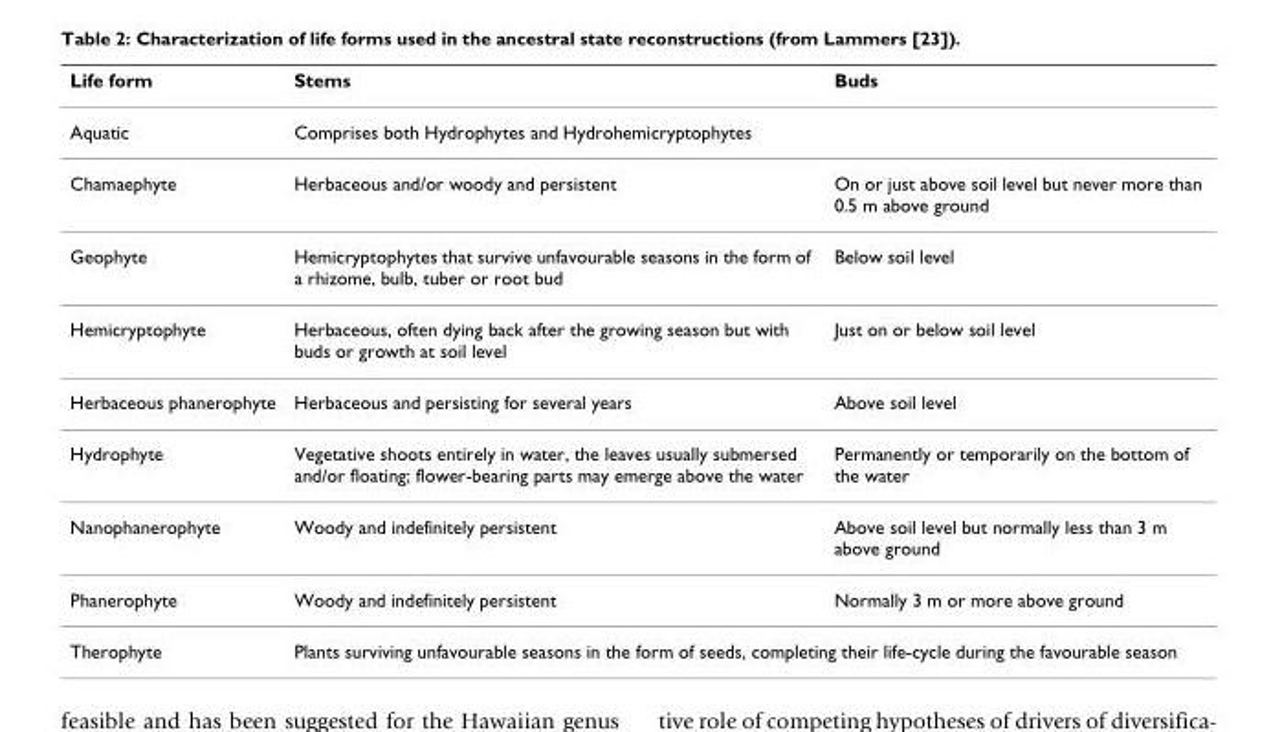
<table><thead><tr><td>Life form</td><td>Stems</td><td>Buds</td></tr></thead><tbody><tr><td>Aquatic</td><td>Comprises both Hydrophytes and Hydrohemicryptophytes</td><td></td></tr><tr><td>Chamaephyte</td><td>Herbaceous and/or woody and persistent</td><td>On or just above soil level but never more than 0.5 m above ground</td></tr><tr><td>Geophyte</td><td>Hemicryptophytes that survive unfavourable seasons in the form of a rhizome, bulb, tuber or root bud</td><td>Below soil level</td></tr><tr><td>Hemicryptophyte</td><td>Herbaceous, often dying back after the growing season but with buds or growth at soil level</td><td>Just on or below soil level</td></tr><tr><td>Herbaceous phanerophyte</td><td>Herbaceous and persisting for several years</td><td>Above soil level</td></tr><tr><td>Hydrophyte</td><td>Vegetative shoots entirely in water, the leaves usually submersed and/or floating; flower-bearing parts may emerge above the water</td><td>Permanently or temporarily on the bottom of the water</td></tr><tr><td>Nanophanerophyte</td><td>Woody and indefinitely persistent</td><td>Above soil level but normally less than 3 m above ground</td></tr><tr><td>Phanerophyte</td><td>Woody and indefinitely persistent</td><td>Normally 3 m or more above ground</td></tr><tr><td>Therophyte</td><td colspan="2">Plants surviving unfavourable seasons in the form of seeds, completing their life-cycle during the favourable season</td></tr></tbody></table>